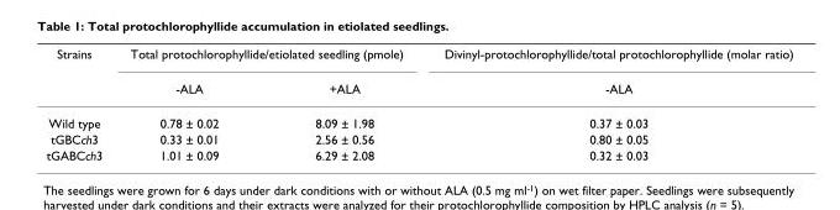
<table><thead><tr><td rowspan="2">Strains</td><td colspan="2">Total protochlorophyllide/etiolated seedling (pmole)</td><td rowspan="2">Divinyl-protochlorophyllide/total protochlorophyllide (molar ratio) -ALA</td></tr><tr><td>-ALA</td><td>+ALA</td></tr></thead><tbody><tr><td>Wild type</td><td>0.78 ± 0.02</td><td>8.09 ± 1.98</td><td>0.37 ± 0.03</td></tr><tr><td>tGBCch3</td><td>0.33 ± 0.01</td><td>2.56 ± 0.56</td><td>0.80 ± 0.05</td></tr><tr><td>tGABCch3</td><td>1.01 ± 0.09</td><td>6.29 ± 2.08</td><td>0.32 ± 0.03</td></tr></tbody></table>